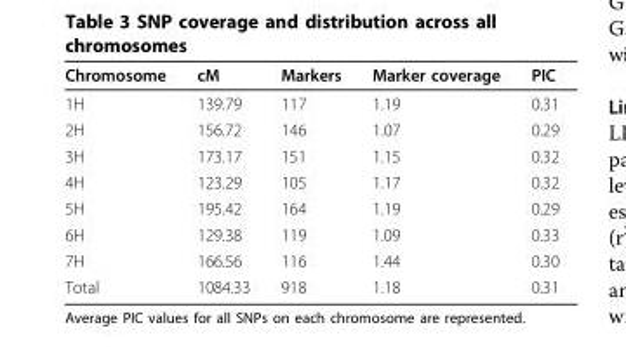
<table><thead><tr><td>Chromosome</td><td>cM</td><td>Markers</td><td>Marker coverage</td><td>PIC</td></tr></thead><tbody><tr><td>1H</td><td>139.79</td><td>117</td><td>1.19</td><td>0.31</td></tr><tr><td>2H</td><td>156.72</td><td>146</td><td>1.07</td><td>0.29</td></tr><tr><td>3H</td><td>173.17</td><td>151</td><td>1.15</td><td>0.32</td></tr><tr><td>4H</td><td>123.29</td><td>105</td><td>1.17</td><td>0.32</td></tr><tr><td>5H</td><td>195.42</td><td>164</td><td>1.19</td><td>0.29</td></tr><tr><td>6H</td><td>129.38</td><td>119</td><td>1.09</td><td>0.33</td></tr><tr><td>7H</td><td>166.56</td><td>116</td><td>1.44</td><td>0.30</td></tr><tr><td>Total</td><td>1084.33</td><td>918</td><td>1.18</td><td>0.31</td></tr></tbody></table>